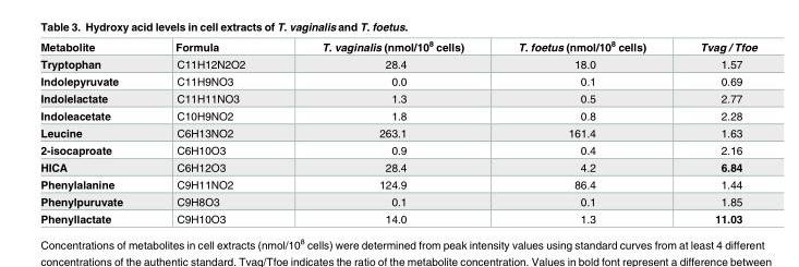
<table><thead><tr><td>Metabolite</td><td>Formula</td><td>T. vaginalis (nmol/10<sup>8</sup> cells)</td><td>T. foetus (nmol/10<sup>8</sup> cells)</td><td>Tvag / Tfoe</td></tr></thead><tbody><tr><td>Tryptophan</td><td>C11H12N2O2</td><td>28.4</td><td>18.0</td><td>1.57</td></tr><tr><td>Indolepyruvate</td><td>C11H9NO3</td><td>0.0</td><td>0.1</td><td>0.69</td></tr><tr><td>Indolelactate</td><td>C11H11NO3</td><td>1.3</td><td>0.5</td><td>2.77</td></tr><tr><td>Indoleacetate</td><td>C10H9NO2</td><td>1.8</td><td>0.8</td><td>2.28</td></tr><tr><td>Leucine</td><td>C6H13NO2</td><td>263.1</td><td>161.4</td><td>1.63</td></tr><tr><td>2-isocaproate</td><td>C6H10O3</td><td>0.9</td><td>0.4</td><td>2.16</td></tr><tr><td>HICA</td><td>C6H12O3</td><td>28.4</td><td>4.2</td><td>6.84</td></tr><tr><td>Phenylalanine</td><td>C9H11NO2</td><td>124.9</td><td>86.4</td><td>1.44</td></tr><tr><td>Phenylpuruvate</td><td>C9H8O3</td><td>0.1</td><td>0.1</td><td>1.85</td></tr><tr><td>Phenyllactate</td><td>C9H10O3</td><td>14.0</td><td>1.3</td><td>11.03</td></tr></tbody></table>